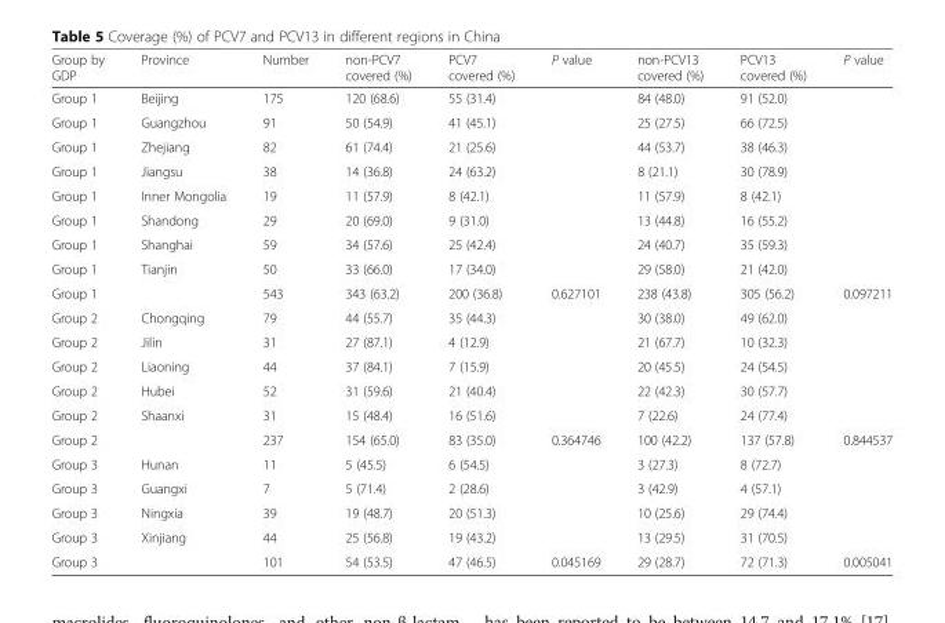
<table><thead><tr><td>Group by GDP</td><td>Province</td><td>Number</td><td>non-PCV7 covered (%)</td><td>PCV7 covered (%)</td><td>P value</td><td>non-PCV13 covered (%)</td><td>PCV13 covered (%)</td><td>P value</td></tr></thead><tbody><tr><td>Group 1</td><td>Beijing</td><td>175</td><td>120 (68.6)</td><td>55 (31.4)</td><td></td><td>84 (48.0)</td><td>91 (52.0)</td><td></td></tr><tr><td>Group 1</td><td>Guangzhou</td><td>91</td><td>50 (54.9)</td><td>41 (45.1)</td><td></td><td>25 (27.5)</td><td>66 (72.5)</td><td></td></tr><tr><td>Group 1</td><td>Zhejiang</td><td>82</td><td>61 (74.4)</td><td>21 (25.6)</td><td></td><td>44 (53.7)</td><td>38 (46.3)</td><td></td></tr><tr><td>Group 1</td><td>Jiangsu</td><td>38</td><td>14 (36.8)</td><td>24 (63.2)</td><td></td><td>8 (21.1)</td><td>30 (78.9)</td><td></td></tr><tr><td>Group 1</td><td>Inner Mongolia</td><td>19</td><td>11 (57.9)</td><td>8 (42.1)</td><td></td><td>11 (57.9)</td><td>8 (42.1)</td><td></td></tr><tr><td>Group 1</td><td>Shandong</td><td>29</td><td>20 (69.0)</td><td>9 (31.0)</td><td></td><td>13 (44.8)</td><td>16 (55.2)</td><td></td></tr><tr><td>Group 1</td><td>Shanghai</td><td>59</td><td>34 (57.6)</td><td>25 (42.4)</td><td></td><td>24 (40.7)</td><td>35 (59.3)</td><td></td></tr><tr><td>Group 1</td><td>Tianjin</td><td>50</td><td>33 (66.0)</td><td>17 (34.0)</td><td></td><td>29 (58.0)</td><td>21 (42.0)</td><td></td></tr><tr><td>Group 1</td><td></td><td>543</td><td>343 (63.2)</td><td>200 (36.8)</td><td>0.627101</td><td>238 (43.8)</td><td>305 (56.2)</td><td>0.097211</td></tr><tr><td>Group 2</td><td>Chongqing</td><td>79</td><td>44 (55.7)</td><td>35 (44.3)</td><td></td><td>30 (38.0)</td><td>49 (62.0)</td><td></td></tr><tr><td>Group 2</td><td>Jilin</td><td>31</td><td>27 (87.1)</td><td>4 (12.9)</td><td></td><td>21 (67.7)</td><td>10 (32.3)</td><td></td></tr><tr><td>Group 2</td><td>Liaoning</td><td>44</td><td>37 (84.1)</td><td>7 (15.9)</td><td></td><td>20 (45.5)</td><td>24 (54.5)</td><td></td></tr><tr><td>Group 2</td><td>Hubei</td><td>52</td><td>31 (59.6)</td><td>21 (40.4)</td><td></td><td>22 (42.3)</td><td>30 (57.7)</td><td></td></tr><tr><td>Group 2</td><td>Shaanxi</td><td>31</td><td>15 (48.4)</td><td>16 (51.6)</td><td></td><td>7 (22.6)</td><td>24 (77.4)</td><td></td></tr><tr><td>Group 2</td><td></td><td>237</td><td>154 (65.0)</td><td>83 (35.0)</td><td>0.364746</td><td>100 (42.2)</td><td>137 (57.8)</td><td>0.844537</td></tr><tr><td>Group 3</td><td>Hunan</td><td>11</td><td>5 (45.5)</td><td>6 (54.5)</td><td></td><td>3 (27.3)</td><td>8 (72.7)</td><td></td></tr><tr><td>Group 3</td><td>Guangxi</td><td>7</td><td>5 (71.4)</td><td>2 (28.6)</td><td></td><td>3 (42.9)</td><td>4 (57.1)</td><td></td></tr><tr><td>Group 3</td><td>Ningxia</td><td>39</td><td>19 (48.7)</td><td>20 (51.3)</td><td></td><td>10 (25.6)</td><td>29 (74.4)</td><td></td></tr><tr><td>Group 3</td><td>Xinjiang</td><td>44</td><td>25 (56.8)</td><td>19 (43.2)</td><td></td><td>13 (29.5)</td><td>31 (70.5)</td><td></td></tr><tr><td>Group 3</td><td></td><td>101</td><td>54 (53.5)</td><td>47 (46.5)</td><td>0.045169</td><td>29 (28.7)</td><td>72 (71.3)</td><td>0.005041</td></tr></tbody></table>